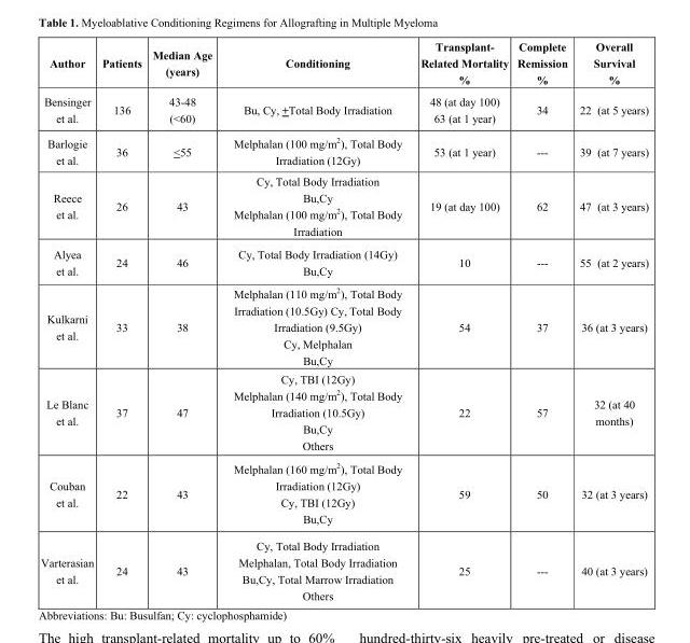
<table><thead><tr><td>Author</td><td>Patients</td><td>Median Age (years)</td><td>Conditioning</td><td>Transplant- Related Mortality %</td><td>Complete Remission %</td><td>Overall Survival %</td></tr></thead><tbody><tr><td>Bensinger et al.</td><td>136</td><td>43-48 (&lt;60)</td><td>Bu, Cy, +Total Body Irradiation</td><td>48 (at day 100) 63 (at 1 year)</td><td>34</td><td>22 (at 5 years)</td></tr><tr><td>Barlogie et al.</td><td>36</td><td>&lt;55</td><td>Melphalan (100 mg/m<sup>2</sup>), Total Body Irradiation (12Gy)</td><td>53 (at 1 year)</td><td>---</td><td>39 (at 7 years)</td></tr><tr><td>Reece et al.</td><td>26</td><td>43</td><td>Cy, Total Body Irradiation Bu,Cy Melphalan (100 mg/m<sup>2</sup>), Total Body Irradiation</td><td>19 (at day 100)</td><td>62</td><td>47 (at 3 years)</td></tr><tr><td>Alyea et al.</td><td>24</td><td>46</td><td>Cy, Total Body Irradiation (14Gy) Bu,Cy</td><td>10</td><td>---</td><td>55 (at 2 years)</td></tr><tr><td>Kulkarni et al.</td><td>33</td><td>38</td><td>Melphalan (110 mg/m<sup>2</sup>), Total Body Irradiation (10.5Gy) Cy, Total Body Irradiation (9.5Gy) Cy, Melphalan Bu,Cy</td><td>54</td><td>37</td><td>36 (at 3 years)</td></tr><tr><td>Le Blanc et al.</td><td>37</td><td>47</td><td>Cy, TBI (12Gy) Melphalan (140 mg/m<sup>2</sup>), Total Body Irradiation (10.5Gy) Bu,Cy Others</td><td>22</td><td>57</td><td>32 (at 40 months)</td></tr><tr><td>Couban et al.</td><td>22</td><td>43</td><td>Melphalan (160 mg/m<sup>2</sup>), Total Body Irradiation (12Gy) Cy, TBI (12Gy) Bu,Cy</td><td>59</td><td>50</td><td>32 (at 3 years)</td></tr><tr><td>Varterasian et al.</td><td>24</td><td>43</td><td>Cy, Total Body Irradiation Melphalan, Total Body Irradiation Bu,Cy, Total Marrow Irradiation Others</td><td>25</td><td>---</td><td>40 (at 3 years)</td></tr></tbody></table>